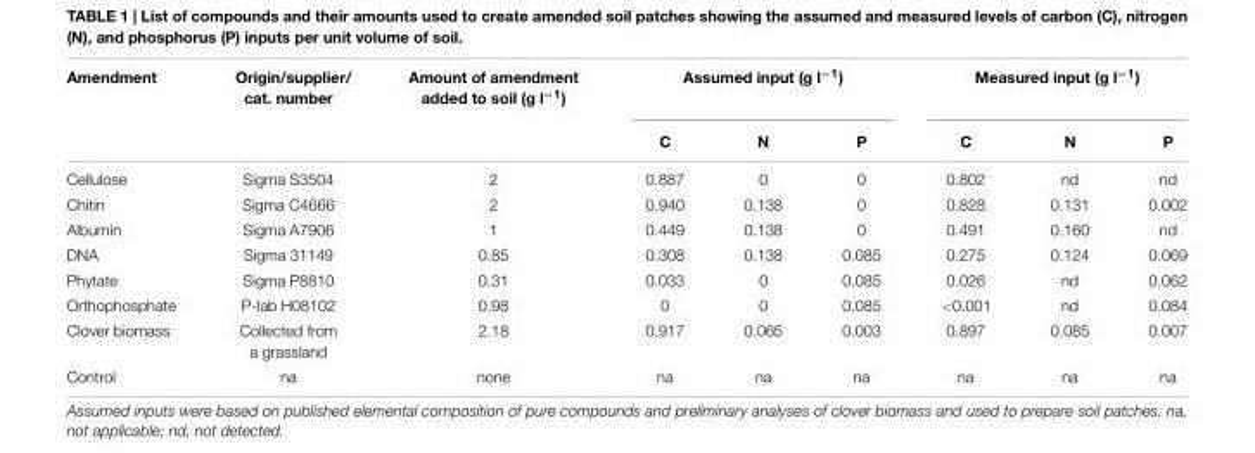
<table><thead><tr><td rowspan="2">Amendment</td><td rowspan="2">Origin/supplier/ cat. number</td><td rowspan="2">Amount of amendment added to soil (g l<sup>−1</sup>)</td><td colspan="3">Assumed input (g l<sup>−1</sup>)</td><td colspan="3">Measured input (g l<sup>−1</sup>)</td></tr><tr><td>C</td><td>N</td><td>P</td><td>C</td><td>N</td><td>P</td></tr></thead><tbody><tr><td>Cellulose</td><td>Sigma S3504</td><td>2</td><td>0.887</td><td>0</td><td>0</td><td>0.802</td><td>nd</td><td>nd</td></tr><tr><td>Chitin</td><td>Sigma C4666</td><td>2</td><td>0.940</td><td>0.138</td><td>0</td><td>0.828</td><td>0.131</td><td>0.002</td></tr><tr><td>Albumin</td><td>Sigma A7906</td><td>1</td><td>0.449</td><td>0.138</td><td>0</td><td>0.491</td><td>0.160</td><td>nd</td></tr><tr><td>DNA</td><td>Sigma 31149</td><td>0.85</td><td>0.308</td><td>0.138</td><td>0.085</td><td>0.275</td><td>0.124</td><td>0.069</td></tr><tr><td>Phytate</td><td>Sigma P8810</td><td>0.31</td><td>0.033</td><td>0</td><td>0.085</td><td>0.026</td><td>nd</td><td>0.062</td></tr><tr><td>Orthophosphate</td><td>P-lab H08102</td><td>0.98</td><td>0</td><td>0</td><td>0.085</td><td>&lt;0.001</td><td>nd</td><td>0.084</td></tr><tr><td>Clover biomass</td><td>Collected from a grassland</td><td>2.18</td><td>0.917</td><td>0.065</td><td>0.003</td><td>0.897</td><td>0.085</td><td>0.007</td></tr><tr><td>Control</td><td>na</td><td>none</td><td>na</td><td>na</td><td>na</td><td>na</td><td>na</td><td>na</td></tr></tbody></table>